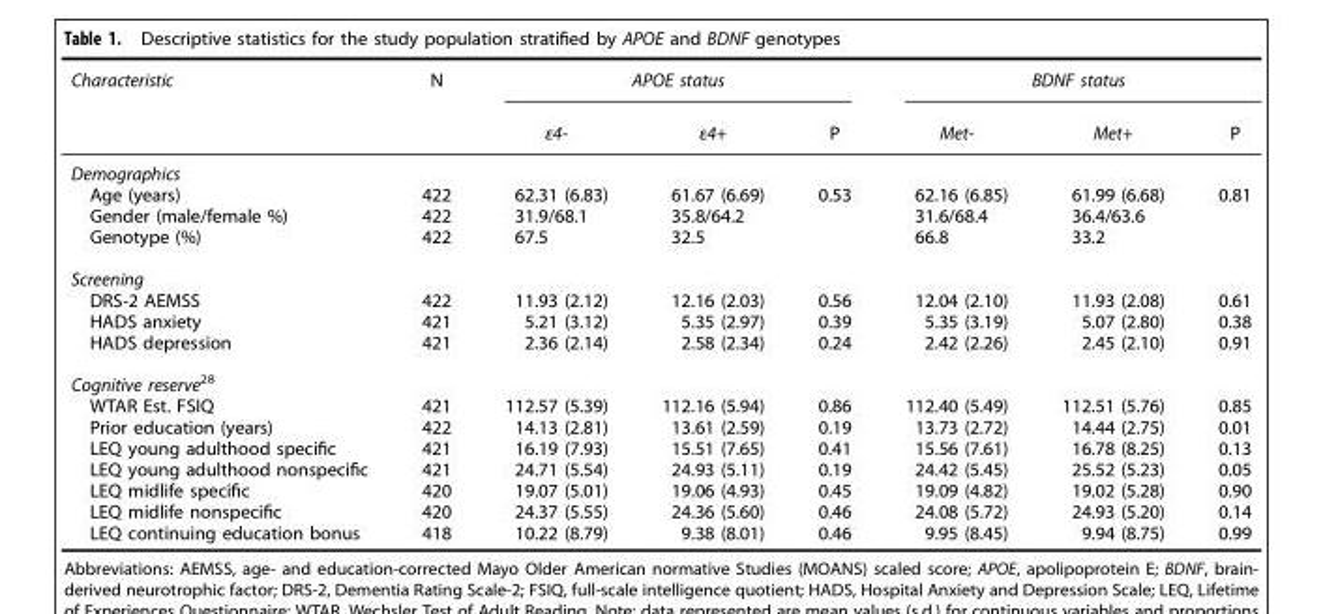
<table><thead><tr><td rowspan="2">Characteristic</td><td rowspan="2">N</td><td colspan="3">APOE status</td><td colspan="3">BDNF status</td></tr><tr><td>ε4-</td><td>ε4+</td><td>P</td><td>Met-</td><td>Met+</td><td>P</td></tr></thead><tbody><tr><td colspan="8">Demographics</td></tr><tr><td>Age (years)</td><td>422</td><td>62.31 (6.83)</td><td>61.67 (6.69)</td><td>0.53</td><td>62.16 (6.85)</td><td>61.99 (6.68)</td><td>0.81</td></tr><tr><td>Gender (male/female %)</td><td>422</td><td>31.9/68.1</td><td>35.8/64.2</td><td></td><td>31.6/68.4</td><td>36.4/63.6</td><td></td></tr><tr><td>Genotype (%)</td><td>422</td><td>67.5</td><td>32.5</td><td></td><td>66.8</td><td>33.2</td><td></td></tr><tr><td colspan="8">Screening</td></tr><tr><td>DRS-2 AEMSS</td><td>422</td><td>11.93 (2.12)</td><td>12.16 (2.03)</td><td>0.56</td><td>12.04 (2.10)</td><td>11.93 (2.08)</td><td>0.61</td></tr><tr><td>HADS anxiety</td><td>421</td><td>5.21 (3.12)</td><td>5.35 (2.97)</td><td>0.39</td><td>5.35 (3.19)</td><td>5.07 (2.80)</td><td>0.38</td></tr><tr><td>HADS depression</td><td>421</td><td>2.36 (2.14)</td><td>2.58 (2.34)</td><td>0.24</td><td>2.42 (2.26)</td><td>2.45 (2.10)</td><td>0.91</td></tr><tr><td colspan="8">Cognitive reserve<sup>28</sup></td></tr><tr><td>WTAR Est. FSIQ</td><td>421</td><td>112.57 (5.39)</td><td>112.16 (5.94)</td><td>0.86</td><td>112.40 (5.49)</td><td>112.51 (5.76)</td><td>0.85</td></tr><tr><td>Prior education (years)</td><td>422</td><td>14.13 (2.81)</td><td>13.61 (2.59)</td><td>0.19</td><td>13.73 (2.72)</td><td>14.44 (2.75)</td><td>0.01</td></tr><tr><td>LEQ young adulthood specific</td><td>421</td><td>16.19 (7.93)</td><td>15.51 (7.65)</td><td>0.41</td><td>15.56 (7.61)</td><td>16.78 (8.25)</td><td>0.13</td></tr><tr><td>LEQ young adulthood nonspecific</td><td>421</td><td>24.71 (5.54)</td><td>24.93 (5.11)</td><td>0.19</td><td>24.42 (5.45)</td><td>25.52 (5.23)</td><td>0.05</td></tr><tr><td>LEQ midlife specific</td><td>420</td><td>19.07 (5.01)</td><td>19.06 (4.93)</td><td>0.45</td><td>19.09 (4.82)</td><td>19.02 (5.28)</td><td>0.90</td></tr><tr><td>LEQ midlife nonspecific</td><td>420</td><td>24.37 (5.55)</td><td>24.36 (5.60)</td><td>0.46</td><td>24.08 (5.72)</td><td>24.93 (5.20)</td><td>0.14</td></tr><tr><td>LEQ continuing education bonus</td><td>418</td><td>10.22 (8.79)</td><td>9.38 (8.01)</td><td>0.46</td><td>9.95 (8.45)</td><td>9.94 (8.75)</td><td>0.99</td></tr></tbody></table>